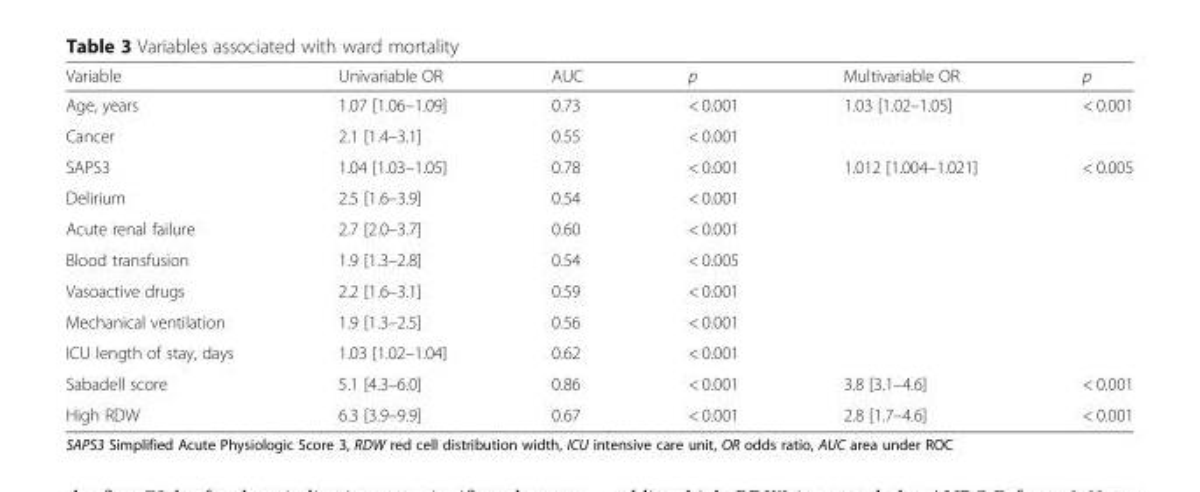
<table><thead><tr><td>Variable</td><td>Univariable OR</td><td>AUC</td><td>p</td><td>Multivariable OR</td><td>p</td></tr></thead><tbody><tr><td>Age, years</td><td>1.07 [1.06–1.09]</td><td>0.73</td><td>&lt; 0.001</td><td>1.03 [1.02–1.05]</td><td>&lt; 0.001</td></tr><tr><td>Cancer</td><td>2.1 [1.4–3.1]</td><td>0.55</td><td>&lt; 0.001</td><td></td><td></td></tr><tr><td>SAPS3</td><td>1.04 [1.03–1.05]</td><td>0.78</td><td>&lt; 0.001</td><td>1.012 [1.004–1.021]</td><td>&lt; 0.005</td></tr><tr><td>Delirium</td><td>2.5 [1.6–3.9]</td><td>0.54</td><td>&lt; 0.001</td><td></td><td></td></tr><tr><td>Acute renal failure</td><td>2.7 [2.0–3.7]</td><td>0.60</td><td>&lt; 0.001</td><td></td><td></td></tr><tr><td>Blood transfusion</td><td>1.9 [1.3–2.8]</td><td>0.54</td><td>&lt; 0.005</td><td></td><td></td></tr><tr><td>Vasoactive drugs</td><td>2.2 [1.6–3.1]</td><td>0.59</td><td>&lt; 0.001</td><td></td><td></td></tr><tr><td>Mechanical ventilation</td><td>1.9 [1.3–2.5]</td><td>0.56</td><td>&lt; 0.001</td><td></td><td></td></tr><tr><td>ICU length of stay, days</td><td>1.03 [1.02–1.04]</td><td>0.62</td><td>&lt; 0.001</td><td></td><td></td></tr><tr><td>Sabadell score</td><td>5.1 [4.3–6.0]</td><td>0.86</td><td>&lt; 0.001</td><td>3.8 [3.1–4.6]</td><td>&lt; 0.001</td></tr><tr><td>High RDW</td><td>6.3 [3.9–9.9]</td><td>0.67</td><td>&lt; 0.001</td><td>2.8 [1.7–4.6]</td><td>&lt; 0.001</td></tr></tbody></table>